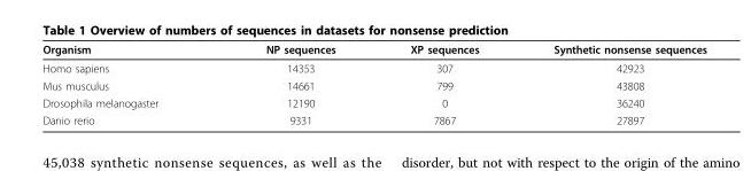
<table><thead><tr><td>Organism</td><td>NP sequences</td><td>XP sequences</td><td>Synthetic nonsense sequences</td></tr></thead><tbody><tr><td>Homo sapiens</td><td>14353</td><td>307</td><td>42923</td></tr><tr><td>Mus musculus</td><td>14661</td><td>799</td><td>43808</td></tr><tr><td>Drosophila melanogaster</td><td>12190</td><td>0</td><td>36240</td></tr><tr><td>Danio rerio</td><td>9331</td><td>7867</td><td>27897</td></tr></tbody></table>